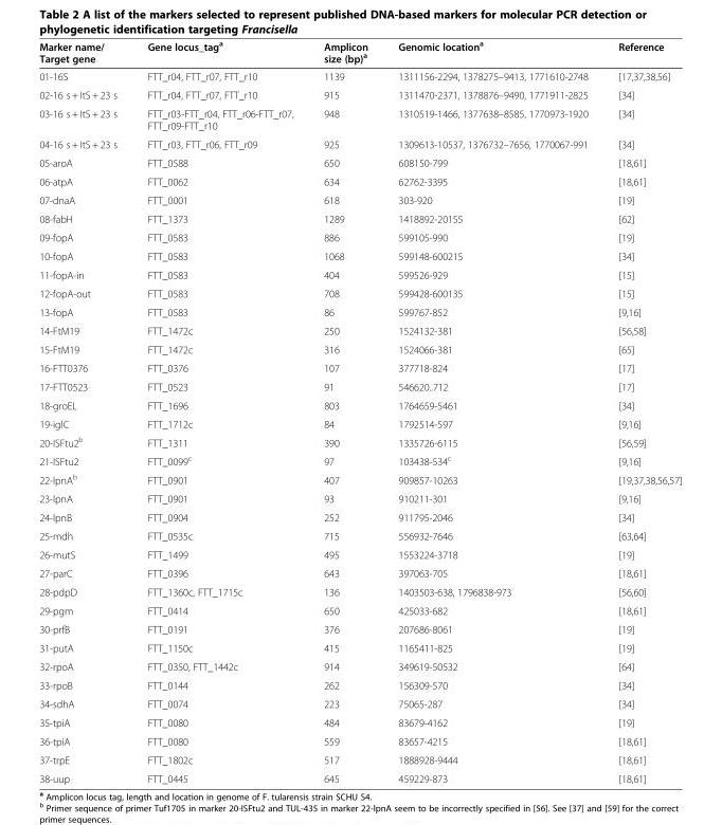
<table><thead><tr><td>Marker name/ Target gene</td><td>Gene locus_tag<sup>a</sup></td><td>Amplicon size (bp)<sup>a</sup></td><td>Genomic location<sup>a</sup></td><td>Reference</td></tr></thead><tbody><tr><td>01-16S</td><td>FTT_r04, FTT_r07, FTT_r10</td><td>1139</td><td>1311156-2294, 1378275–9413, 1771610-2748</td><td>[17,37,38,56]</td></tr><tr><td>02-16 s + ItS + 23 s</td><td>FTT_r04, FTT_r07, FTT_r10</td><td>915</td><td>1311470-2371, 1378876–9490, 1771911-2825</td><td>[34]</td></tr><tr><td>03-16 s + ItS + 23 s</td><td>FTT_r03-FTT_r04, FTT_r06-FTT_r07, FTT_r09-FTT_r10</td><td>948</td><td>1310519-1466, 1377638–8585, 1770973-1920</td><td>[34]</td></tr><tr><td>04-16 s + ItS + 23 s</td><td>FTT_r03, FTT_r06, FTT_r09</td><td>925</td><td>1309613-10537, 1376732–7656, 1770067-991</td><td>[34]</td></tr><tr><td>05-aroA</td><td>FTT_0588</td><td>650</td><td>608150-799</td><td>[18,61]</td></tr><tr><td>06-atpA</td><td>FTT_0062</td><td>634</td><td>62762-3395</td><td>[18,61]</td></tr><tr><td>07-dnaA</td><td>FTT_0001</td><td>618</td><td>303-920</td><td>[19]</td></tr><tr><td>08-fabH</td><td>FTT_1373</td><td>1289</td><td>1418892-20155</td><td>[62]</td></tr><tr><td>09-fopA</td><td>FTT_0583</td><td>886</td><td>599105-990</td><td>[19]</td></tr><tr><td>10-fopA</td><td>FTT_0583</td><td>1068</td><td>599148-600215</td><td>[34]</td></tr><tr><td>11-fopA-in</td><td>FTT_0583</td><td>404</td><td>599526-929</td><td>[15]</td></tr><tr><td>12-fopA-out</td><td>FTT_0583</td><td>708</td><td>599428-600135</td><td>[15]</td></tr><tr><td>13-fopA</td><td>FTT_0583</td><td>86</td><td>599767-852</td><td>[9,16]</td></tr><tr><td>14-FtM19</td><td>FTT_1472c</td><td>250</td><td>1524132-381</td><td>[56,58]</td></tr><tr><td>15-FtM19</td><td>FTT_1472c</td><td>316</td><td>1524066-381</td><td>[65]</td></tr><tr><td>16-FTT0376</td><td>FTT_0376</td><td>107</td><td>377718-824</td><td>[17]</td></tr><tr><td>17-FTT0523</td><td>FTT_0523</td><td>91</td><td>546620..712</td><td>[17]</td></tr><tr><td>18-groEL</td><td>FTT_1696</td><td>803</td><td>1764659-5461</td><td>[34]</td></tr><tr><td>19-iglC</td><td>FTT_1712c</td><td>84</td><td>1792514-597</td><td>[9,16]</td></tr><tr><td>20-ISFtu2<sup>b</sup></td><td>FTT_1311</td><td>390</td><td>1335726-6115</td><td>[56,59]</td></tr><tr><td>21-ISFtu2</td><td>FTT_0099<sup>c</sup></td><td>97</td><td>103438-534<sup>c</sup></td><td>[9,16]</td></tr><tr><td>22-lpnA<sup>b</sup></td><td>FTT_0901</td><td>407</td><td>909857-10263</td><td>[19,37,38,56,57]</td></tr><tr><td>23-lpnA</td><td>FTT_0901</td><td>93</td><td>910211-301</td><td>[9,16]</td></tr><tr><td>24-lpnB</td><td>FTT_0904</td><td>252</td><td>911795-2046</td><td>[34]</td></tr><tr><td>25-mdh</td><td>FTT_0535c</td><td>715</td><td>556932-7646</td><td>[63,64]</td></tr><tr><td>26-mutS</td><td>FTT_1499</td><td>495</td><td>1553224-3718</td><td>[19]</td></tr><tr><td>27-parC</td><td>FTT_0396</td><td>643</td><td>397063-705</td><td>[18,61]</td></tr><tr><td>28-pdpD</td><td>FTT_1360c, FTT_1715c</td><td>136</td><td>1403503-638, 1796838-973</td><td>[56,60]</td></tr><tr><td>29-pgm</td><td>FTT_0414</td><td>650</td><td>425033-682</td><td>[18,61]</td></tr><tr><td>30-prfB</td><td>FTT_0191</td><td>376</td><td>207686-8061</td><td>[19]</td></tr><tr><td>31-putA</td><td>FTT_1150c</td><td>415</td><td>1165411-825</td><td>[19]</td></tr><tr><td>32-rpoA</td><td>FTT_0350, FTT_1442c</td><td>914</td><td>349619-50532</td><td>[64]</td></tr><tr><td>33-rpoB</td><td>FTT_0144</td><td>262</td><td>156309-570</td><td>[34]</td></tr><tr><td>34-sdhA</td><td>FTT_0074</td><td>223</td><td>75065-287</td><td>[34]</td></tr><tr><td>35-tpiA</td><td>FTT_0080</td><td>484</td><td>83679-4162</td><td>[19]</td></tr><tr><td>36-tpiA</td><td>FTT_0080</td><td>559</td><td>83657-4215</td><td>[18,61]</td></tr><tr><td>37-trpE</td><td>FTT_1802c</td><td>517</td><td>1888928-9444</td><td>[18,61]</td></tr><tr><td>38-uup</td><td>FTT_0445</td><td>645</td><td>459229-873</td><td>[18,61]</td></tr></tbody></table>